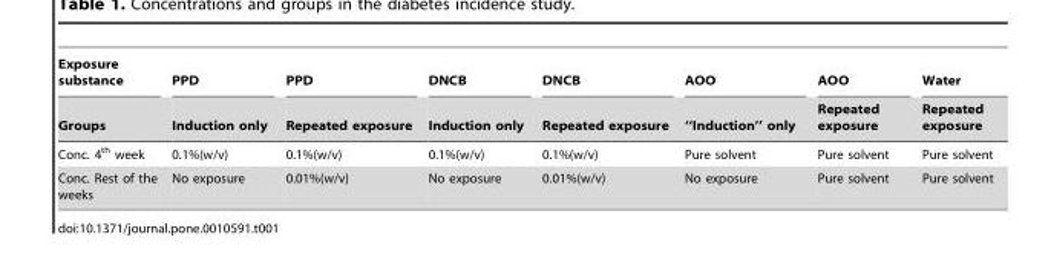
<table><thead><tr><td rowspan="2">Exposure substance Groups</td><td rowspan="2">PPD Induction only</td><td rowspan="2">PPD Repeated exposure</td><td rowspan="2">DNCB Induction only</td><td rowspan="2">DNCB Repeated exposure</td><td rowspan="2">AOO ‘‘Induction’’ only</td><td rowspan="2">AOO Repeated exposure</td><td rowspan="2">Water Repeated exposure</td></tr><tr></tr></thead><tbody><tr><td>Conc. 4<sup>th</sup> week</td><td>0.1%(w/v)</td><td>0.1%(w/v)</td><td>0.1%(w/v)</td><td>0.1%(w/v)</td><td>Pure solvent</td><td>Pure solvent</td><td>Pure solvent</td></tr><tr><td>Conc. Rest of the weeks</td><td>No exposure</td><td>0.01%(w/v)</td><td>No exposure</td><td>0.01%(w/v)</td><td>No exposure</td><td>Pure solvent</td><td>Pure solvent</td></tr></tbody></table>